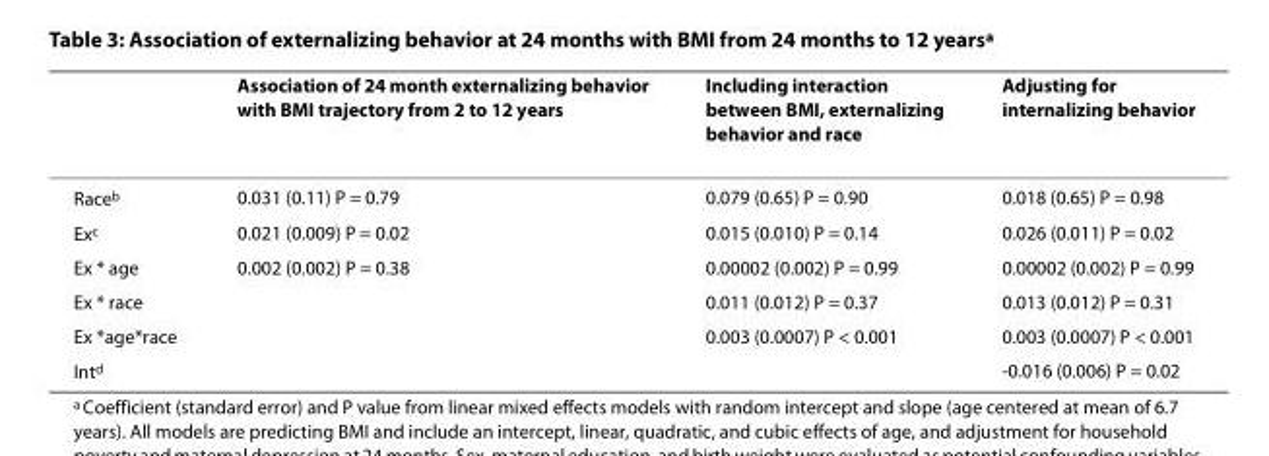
<table><thead><tr><td></td><td>Association of 24 month externalizing behavior with BMI trajectory from 2 to 12 years</td><td>Including interaction between BMI, externalizing behavior and race</td><td>Adjusting for internalizing behavior</td></tr></thead><tbody><tr><td>Race<sup>b</sup></td><td>0.031 (0.11) P = 0.79</td><td>0.079 (0.65) P = 0.90</td><td>0.018 (0.65) P = 0.98</td></tr><tr><td>Ex<sup>c</sup></td><td>0.021 (0.009) P = 0.02</td><td>0.015 (0.010) P = 0.14</td><td>0.026 (0.011) P = 0.02</td></tr><tr><td>Ex * age</td><td>0.002 (0.002) P = 0.38</td><td>0.00002 (0.002) P = 0.99</td><td>0.00002 (0.002) P = 0.99</td></tr><tr><td>Ex * race</td><td></td><td>0.011 (0.012) P = 0.37</td><td>0.013 (0.012) P = 0.31</td></tr><tr><td>Ex *age*race</td><td></td><td>0.003 (0.0007) P &lt; 0.001</td><td>0.003 (0.0007) P &lt; 0.001</td></tr><tr><td>Int<sup>d</sup></td><td></td><td></td><td>-0.016 (0.006) P = 0.02</td></tr></tbody></table>